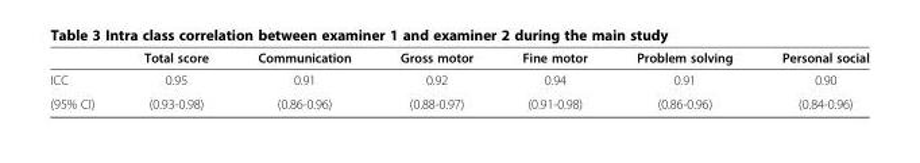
<table><thead><tr><td></td><td>Total score</td><td>Communication</td><td>Gross motor</td><td>Fine motor</td><td>Problem solving</td><td>Personal social</td></tr></thead><tbody><tr><td>ICC</td><td>0.95</td><td>0.91</td><td>0.92</td><td>0.94</td><td>0.91</td><td>0.90</td></tr><tr><td>(95% CI)</td><td>(0.93-0.98)</td><td>(0.86-0.96)</td><td>(0.88-0.97)</td><td>(0.91-0.98)</td><td>(0.86-0.96)</td><td>(0.84-0.96)</td></tr></tbody></table>